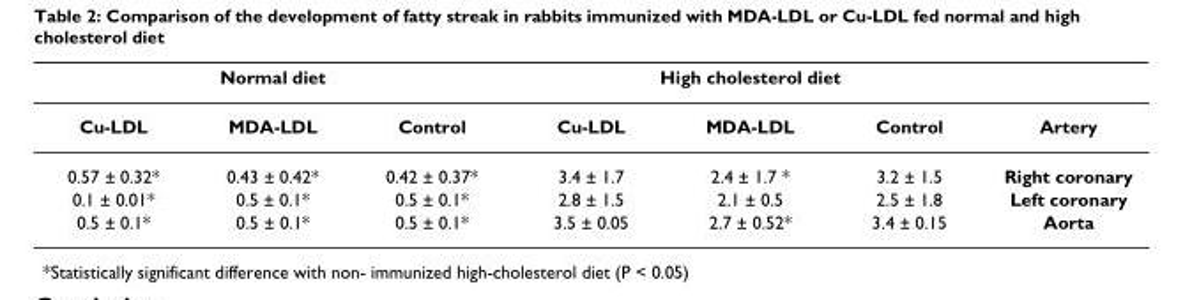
<table><thead><tr><td colspan="3">Normal diet</td><td colspan="3">High cholesterol diet</td><td rowspan="2">Artery</td></tr><tr><td>Cu-LDL</td><td>MDA-LDL</td><td>Control</td><td>Cu-LDL</td><td>MDA-LDL</td><td>Control</td></tr></thead><tbody><tr><td>0.57 ± 0.32*</td><td>0.43 ± 0.42*</td><td>0.42 ± 0.37*</td><td>3.4 ± 1.7</td><td>2.4 ± 1.7 *</td><td>3.2 ± 1.5</td><td>Right coronary</td></tr><tr><td>0.1 ± 0.01*</td><td>0.5 ± 0.1*</td><td>0.5 ± 0.1*</td><td>2.8 ± 1.5</td><td>2.1 ± 0.5</td><td>2.5 ± 1.8</td><td>Left coronary</td></tr><tr><td>0.5 ± 0.1*</td><td>0.5 ± 0.1*</td><td>0.5 ± 0.1*</td><td>3.5 ± 0.05</td><td>2.7 ± 0.52*</td><td>3.4 ± 0.15</td><td>Aorta</td></tr></tbody></table>